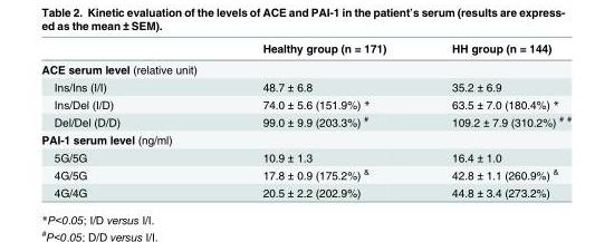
<table><thead><tr><td></td><td>Healthy group (n = 171)</td><td>HH group (n = 144)</td></tr></thead><tbody><tr><td colspan="3">ACE serum level (relative unit)</td></tr><tr><td>Ins/Ins (I/I)</td><td>48.7 ± 6.8</td><td>35.2 ± 6.9</td></tr><tr><td>Ins/Del (I/D)</td><td>74.0 ± 5.6 (151.9%) *</td><td>63.5 ± 7.0 (180.4%) *</td></tr><tr><td>Del/Del (D/D)</td><td>99.0 ± 9.9 (203.3%) <sup>#</sup></td><td>109.2 ± 7.9 (310.2%) <sup># #</sup></td></tr><tr><td colspan="3">PAI-1 serum level (ng/ml)</td></tr><tr><td>5G/5G</td><td>10.9 ± 1.3</td><td>16.4 ± 1.0</td></tr><tr><td>4G/5G</td><td>17.8 ± 0.9 (175.2%) <sup>&amp;</sup></td><td>42.8 ± 1.1 (260.9%) <sup>&amp;</sup></td></tr><tr><td>4G/4G</td><td>20.5 ± 2.2 (202.9%)</td><td>44.8 ± 3.4 (273.2%)</td></tr></tbody></table>